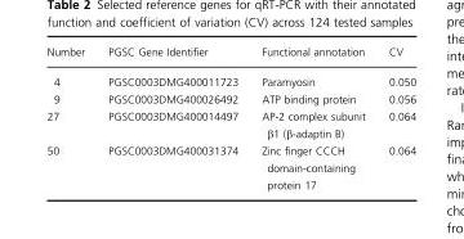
<table><thead><tr><td>Number</td><td>PGSC Gene Identifier</td><td>Functional annotation</td><td>CV</td></tr></thead><tbody><tr><td>4</td><td>PGSC0003DMG400011723</td><td>Paramyosin</td><td>0.050</td></tr><tr><td>9</td><td>PGSC0003DMG400026492</td><td>ATP binding protein</td><td>0.056</td></tr><tr><td>27</td><td>PGSC0003DMG400014497</td><td>AP-2 complex subunit β1 (β-adaptin B)</td><td>0.064</td></tr><tr><td>50</td><td>PGSC0003DMG400031374</td><td>Zinc finger CCCH domain-containing protein 17</td><td>0.064</td></tr></tbody></table>